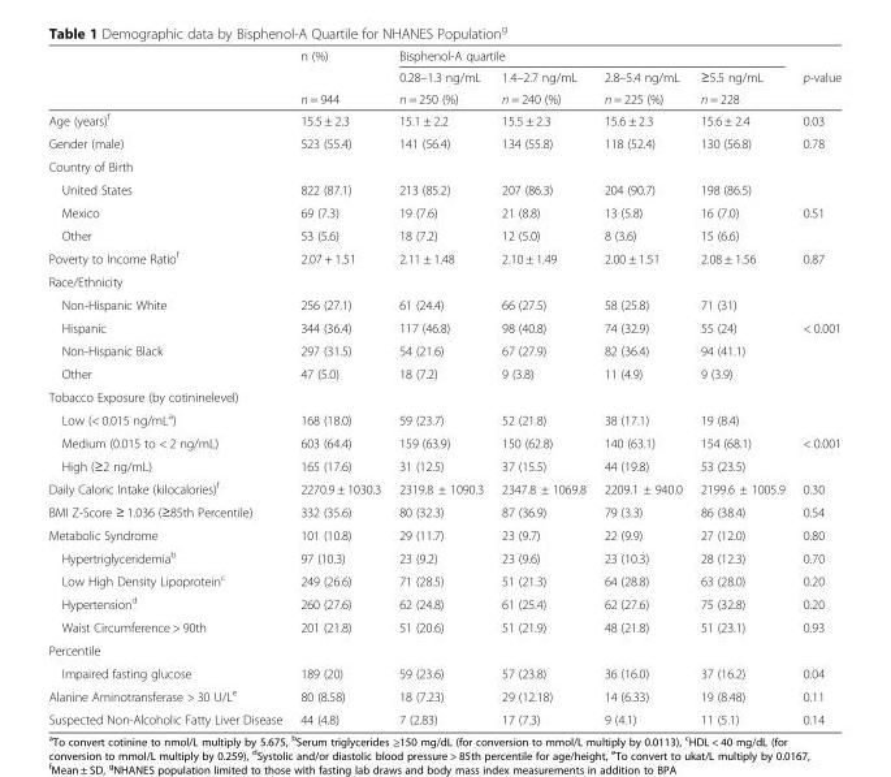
<table><thead><tr><td rowspan="3"></td><td rowspan="3">n (%) n = 944</td><td colspan="4">Bisphenol-A quartile</td><td rowspan="3">p-value</td></tr><tr><td rowspan="2">0.28–1.3 ng/mL n = 250 (%)</td><td rowspan="2">1.4–2.7 ng/mL n = 240 (%)</td><td rowspan="2">2.8–5.4 ng/mL n = 225 (%)</td><td rowspan="2">≥5.5 ng/mL n = 228</td></tr><tr></tr></thead><tbody><tr><td>Age (years)<sup>f</sup></td><td>15.5 ± 2.3</td><td>15.1 ± 2.2</td><td>15.5 ± 2.3</td><td>15.6 ± 2.3</td><td>15.6 ± 2.4</td><td>0.03</td></tr><tr><td>Gender (male)</td><td>523 (55.4)</td><td>141 (56.4)</td><td>134 (55.8)</td><td>118 (52.4)</td><td>130 (56.8)</td><td>0.78</td></tr><tr><td colspan="7">Country of Birth</td></tr><tr><td>United States</td><td>822 (87.1)</td><td>213 (85.2)</td><td>207 (86.3)</td><td>204 (90.7)</td><td>198 (86.5)</td><td></td></tr><tr><td>Mexico</td><td>69 (7.3)</td><td>19 (7.6)</td><td>21 (8.8)</td><td>13 (5.8)</td><td>16 (7.0)</td><td>0.51</td></tr><tr><td>Other</td><td>53 (5.6)</td><td>18 (7.2)</td><td>12 (5.0)</td><td>8 (3.6)</td><td>15 (6.6)</td><td></td></tr><tr><td>Poverty to Income Ratio<sup>f</sup></td><td>2.07 + 1.51</td><td>2.11 ± 1.48</td><td>2.10 ± 1.49</td><td>2.00 ± 1.51</td><td>2.08 ± 1.56</td><td>0.87</td></tr><tr><td colspan="7">Race/Ethnicity</td></tr><tr><td>Non-Hispanic White</td><td>256 (27.1)</td><td>61 (24.4)</td><td>66 (27.5)</td><td>58 (25.8)</td><td>71 (31)</td><td></td></tr><tr><td>Hispanic</td><td>344 (36.4)</td><td>117 (46.8)</td><td>98 (40.8)</td><td>74 (32.9)</td><td>55 (24)</td><td>&lt; 0.001</td></tr><tr><td>Non-Hispanic Black</td><td>297 (31.5)</td><td>54 (21.6)</td><td>67 (27.9)</td><td>82 (36.4)</td><td>94 (41.1)</td><td></td></tr><tr><td>Other</td><td>47 (5.0)</td><td>18 (7.2)</td><td>9 (3.8)</td><td>11 (4.9)</td><td>9 (3.9)</td><td></td></tr><tr><td colspan="7">Tobacco Exposure (by cotininelevel)</td></tr><tr><td>Low (&lt; 0.015 ng/mL<sup>a</sup>)</td><td>168 (18.0)</td><td>59 (23.7)</td><td>52 (21.8)</td><td>38 (17.1)</td><td>19 (8.4)</td><td></td></tr><tr><td>Medium (0.015 to &lt; 2 ng/mL)</td><td>603 (64.4)</td><td>159 (63.9)</td><td>150 (62.8)</td><td>140 (63.1)</td><td>154 (68.1)</td><td>&lt; 0.001</td></tr><tr><td>High (≥2 ng/mL)</td><td>165 (17.6)</td><td>31 (12.5)</td><td>37 (15.5)</td><td>44 (19.8)</td><td>53 (23.5)</td><td></td></tr><tr><td>Daily Caloric Intake (kilocalories)<sup>f</sup></td><td>2270.9 ± 1030.3</td><td>2319.8 ± 1090.3</td><td>2347.8 ± 1069.8</td><td>2209.1 ± 940.0</td><td>2199.6 ± 1005.9</td><td>0.30</td></tr><tr><td>BMI Z-Score ≥ 1.036 (≥85th Percentile)</td><td>332 (35.6)</td><td>80 (32.3)</td><td>87 (36.9)</td><td>79 (3.3)</td><td>86 (38.4)</td><td>0.54</td></tr><tr><td>Metabolic Syndrome</td><td>101 (10.8)</td><td>29 (11.7)</td><td>23 (9.7)</td><td>22 (9.9)</td><td>27 (12.0)</td><td>0.80</td></tr><tr><td>Hypertriglyceridemia<sup>b</sup></td><td>97 (10.3)</td><td>23 (9.2)</td><td>23 (9.6)</td><td>23 (10.3)</td><td>28 (12.3)</td><td>0.70</td></tr><tr><td>Low High Density Lipoprotein<sup>c</sup></td><td>249 (26.6)</td><td>71 (28.5)</td><td>51 (21.3)</td><td>64 (28.8)</td><td>63 (28.0)</td><td>0.20</td></tr><tr><td>Hypertension<sup>d</sup></td><td>260 (27.6)</td><td>62 (24.8)</td><td>61 (25.4)</td><td>62 (27.6)</td><td>75 (32.8)</td><td>0.20</td></tr><tr><td>Waist Circumference &gt; 90th</td><td>201 (21.8)</td><td>51 (20.6)</td><td>51 (21.9)</td><td>48 (21.8)</td><td>51 (23.1)</td><td>0.93</td></tr><tr><td colspan="7">Percentile</td></tr><tr><td>Impaired fasting glucose</td><td>189 (20)</td><td>59 (23.6)</td><td>57 (23.8)</td><td>36 (16.0)</td><td>37 (16.2)</td><td>0.04</td></tr><tr><td>Alanine Aminotransferase &gt; 30 U/L<sup>e</sup></td><td>80 (8.58)</td><td>18 (7.23)</td><td>29 (12.18)</td><td>14 (6.33)</td><td>19 (8.48)</td><td>0.11</td></tr><tr><td>Suspected Non-Alcoholic Fatty Liver Disease</td><td>44 (4.8)</td><td>7 (2.83)</td><td>17 (7.3)</td><td>9 (4.1)</td><td>11 (5.1)</td><td>0.14</td></tr></tbody></table>